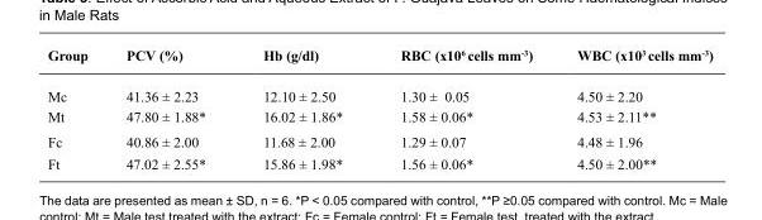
<table><thead><tr><td>Group</td><td>PCV (%)</td><td>Hb (g/dl)</td><td>RBC (x10<sup>6</sup> cells mm<sup>-3</sup>)</td><td>WBC (x10<sup>3</sup> cells mm<sup>-3</sup>)</td></tr></thead><tbody><tr><td>Mc</td><td>41.36 ± 2.23</td><td>12.10 ± 2.50</td><td>1.30 ± 0.05</td><td>4.50 ± 2.20</td></tr><tr><td>Mt</td><td>47.80 ± 1.88*</td><td>16.02 ± 1.86*</td><td>1.58 ± 0.06*</td><td>4.53 ± 2.11**</td></tr><tr><td>Fc</td><td>40.86 ± 2.00</td><td>11.68 ± 2.00</td><td>1.29 ± 0.07</td><td>4.48 ± 1.96</td></tr><tr><td>Ft</td><td>47.02 ± 2.55*</td><td>15.86 ± 1.98*</td><td>1.56 ± 0.06*</td><td>4.50 ± 2.00**</td></tr></tbody></table>